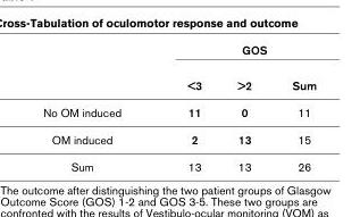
<table><thead><tr><td rowspan="2"></td><td colspan="3">GOS</td></tr><tr><td>&lt;3</td><td>&gt;2</td><td>Sum</td></tr></thead><tbody><tr><td>No OM induced</td><td>11</td><td>0</td><td>11</td></tr><tr><td>OM induced</td><td>2</td><td>13</td><td>15</td></tr><tr><td>Sum</td><td>13</td><td>13</td><td>26</td></tr></tbody></table>